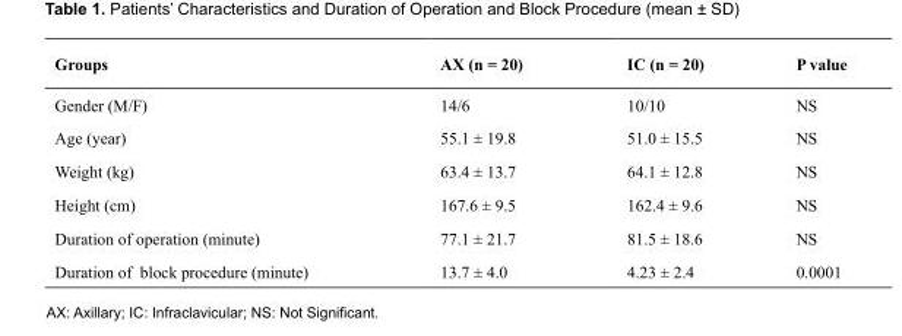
<table><thead><tr><td>Groups</td><td>AX (n = 20)</td><td>IC (n = 20)</td><td>P value</td></tr></thead><tbody><tr><td>Gender (M/F)</td><td>14/6</td><td>10/10</td><td>NS</td></tr><tr><td>Age (year)</td><td>55.1 ± 19.8</td><td>51.0 ± 15.5</td><td>NS</td></tr><tr><td>Weight (kg)</td><td>63.4 ± 13.7</td><td>64.1 ± 12.8</td><td>NS</td></tr><tr><td>Height (cm)</td><td>167.6 ± 9.5</td><td>162.4 ± 9.6</td><td>NS</td></tr><tr><td>Duration of operation (minute)</td><td>77.1 ± 21.7</td><td>81.5 ± 18.6</td><td>NS</td></tr><tr><td>Duration of block procedure (minute)</td><td>13.7 ± 4.0</td><td>4.23 ± 2.4</td><td>0.0001</td></tr></tbody></table>